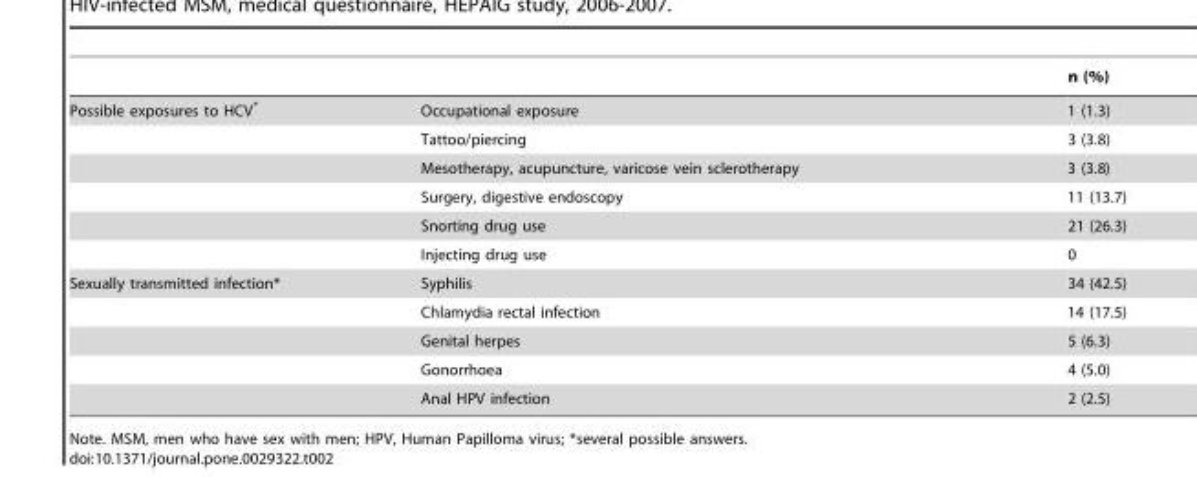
<table><thead><tr><td></td><td></td><td>n (%)</td></tr></thead><tbody><tr><td rowspan="6">Possible exposures to HCV*</td><td>Occupational exposure</td><td>1 (1.3)</td></tr><tr><td>Tattoo/piercing</td><td>3 (3.8)</td></tr><tr><td>Mesotherapy, acupuncture, varicose vein sclerotherapy</td><td>3 (3.8)</td></tr><tr><td>Surgery, digestive endoscopy</td><td>11 (13.7)</td></tr><tr><td>Snorting drug use</td><td>21 (26.3)</td></tr><tr><td>Injecting drug use</td><td>0</td></tr><tr><td rowspan="5">Sexually transmitted infection*</td><td>Syphilis</td><td>34 (42.5)</td></tr><tr><td>Chlamydia rectal infection</td><td>14 (17.5)</td></tr><tr><td>Genital herpes</td><td>5 (6.3)</td></tr><tr><td>Gonorrhoea</td><td>4 (5.0)</td></tr><tr><td>Anal HPV infection</td><td>2 (2.5)</td></tr></tbody></table>